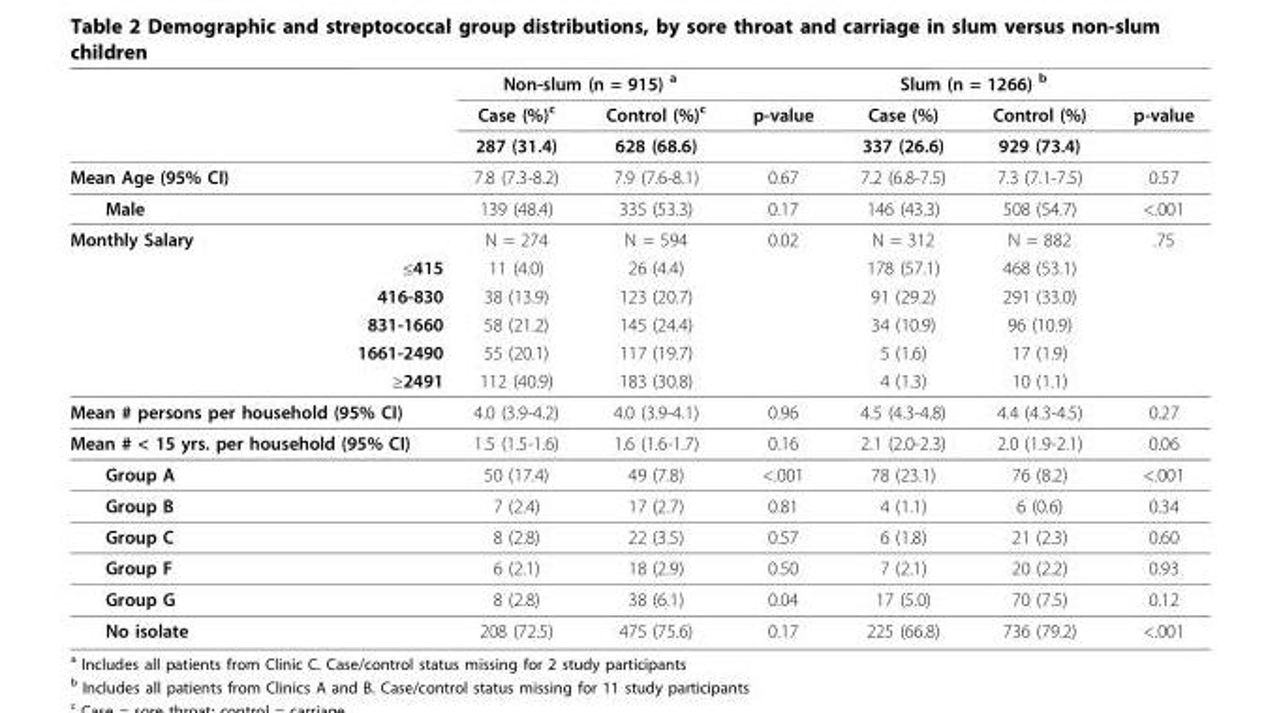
<table><thead><tr><td rowspan="3"></td><td colspan="2">Non-slum (n = 915) a</td><td rowspan="3">p-value</td><td colspan="2">Slum (n = 1266) b</td><td rowspan="3">p-value</td></tr><tr><td rowspan="2">Case (%)c 287 (31.4)</td><td rowspan="2">Control (%)c 628 (68.6)</td><td rowspan="2">Case (%) 337 (26.6)</td><td rowspan="2">Control (%) 929 (73.4)</td></tr><tr></tr></thead><tbody><tr><td>Mean Age (95% CI)</td><td>7.8 (7.3-8.2)</td><td>7.9 (7.6-8.1)</td><td>0.67</td><td>7.2 (6.8-7.5)</td><td>7.3 (7.1-7.5)</td><td>0.57</td></tr><tr><td>Male</td><td>139 (48.4)</td><td>335 (53.3)</td><td>0.17</td><td>146 (43.3)</td><td>508 (54.7)</td><td>&lt;.001</td></tr><tr><td>Monthly Salary</td><td>N = 274</td><td>N = 594</td><td>0.02</td><td>N = 312</td><td>N = 882</td><td>.75</td></tr><tr><td>≤415</td><td>11 (4.0)</td><td>26 (4.4)</td><td></td><td>178 (57.1)</td><td>468 (53.1)</td><td></td></tr><tr><td>416-830</td><td>38 (13.9)</td><td>123 (20.7)</td><td></td><td>91 (29.2)</td><td>291 (33.0)</td><td></td></tr><tr><td>831-1660</td><td>58 (21.2)</td><td>145 (24.4)</td><td></td><td>34 (10.9)</td><td>96 (10.9)</td><td></td></tr><tr><td>1661-2490</td><td>55 (20.1)</td><td>117 (19.7)</td><td></td><td>5 (1.6)</td><td>17 (1.9)</td><td></td></tr><tr><td>≥2491</td><td>112 (40.9)</td><td>183 (30.8)</td><td></td><td>4 (1.3)</td><td>10 (1.1)</td><td></td></tr><tr><td>Mean # persons per household (95% CI)</td><td>4.0 (3.9-4.2)</td><td>4.0 (3.9-4.1)</td><td>0.96</td><td>4.5 (4.3-4.8)</td><td>4.4 (4.3-4.5)</td><td>0.27</td></tr><tr><td>Mean # &lt; 15 yrs. per household (95% CI)</td><td>1.5 (1.5-1.6)</td><td>1.6 (1.6-1.7)</td><td>0.16</td><td>2.1 (2.0-2.3)</td><td>2.0 (1.9-2.1)</td><td>0.06</td></tr><tr><td>Group A</td><td>50 (17.4)</td><td>49 (7.8)</td><td>&lt;.001</td><td>78 (23.1)</td><td>76 (8.2)</td><td>&lt;.001</td></tr><tr><td>Group B</td><td>7 (2.4)</td><td>17 (2.7)</td><td>0.81</td><td>4 (1.1)</td><td>6 (0.6)</td><td>0.34</td></tr><tr><td>Group C</td><td>8 (2.8)</td><td>22 (3.5)</td><td>0.57</td><td>6 (1.8)</td><td>21 (2.3)</td><td>0.60</td></tr><tr><td>Group F</td><td>6 (2.1)</td><td>18 (2.9)</td><td>0.50</td><td>7 (2.1)</td><td>20 (2.2)</td><td>0.93</td></tr><tr><td>Group G</td><td>8 (2.8)</td><td>38 (6.1)</td><td>0.04</td><td>17 (5.0)</td><td>70 (7.5)</td><td>0.12</td></tr><tr><td>No isolate</td><td>208 (72.5)</td><td>475 (75.6)</td><td>0.17</td><td>225 (66.8)</td><td>736 (79.2)</td><td>&lt;.001</td></tr></tbody></table>